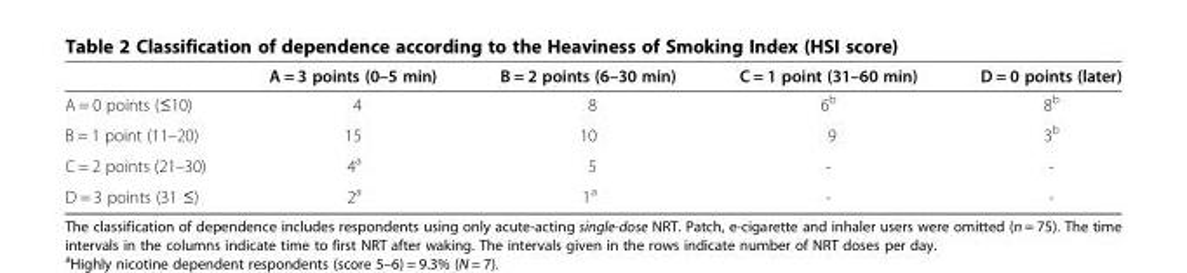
<table><thead><tr><td></td><td>A = 3 points (0–5 min)</td><td>B = 2 points (6–30 min)</td><td>C = 1 point (31–60 min)</td><td>D = 0 points (later)</td></tr></thead><tbody><tr><td>A = 0 points (≤10)</td><td>4</td><td>8</td><td>6<sup>b</sup></td><td>8<sup>b</sup></td></tr><tr><td>B = 1 point (11–20)</td><td>15</td><td>10</td><td>9</td><td>3<sup>b</sup></td></tr><tr><td>C = 2 points (21–30)</td><td>4<sup>a</sup></td><td>5</td><td>-</td><td>-</td></tr><tr><td>D = 3 points (31 ≤)</td><td>2<sup>a</sup></td><td>1<sup>a</sup></td><td>-</td><td>-</td></tr></tbody></table>